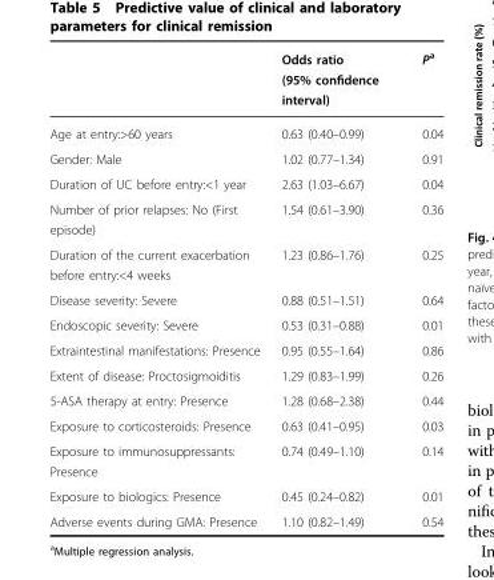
<table><thead><tr><td></td><td>Odds ratio (95% confidence interval)</td><td>P<sup>a</sup></td></tr></thead><tbody><tr><td>Age at entry:&gt;60 years</td><td>0.63 (0.40–0.99)</td><td>0.04</td></tr><tr><td>Gender: Male</td><td>1.02 (0.77–1.34)</td><td>0.91</td></tr><tr><td>Duration of UC before entry:&lt;1 year</td><td>2.63 (1.03–6.67)</td><td>0.04</td></tr><tr><td>Number of prior relapses: No (First episode)</td><td>1.54 (0.61–3.90)</td><td>0.36</td></tr><tr><td>Duration of the current exacerbation before entry:&lt;4 weeks</td><td>1.23 (0.86–1.76)</td><td>0.25</td></tr><tr><td>Disease severity: Severe</td><td>0.88 (0.51–1.51)</td><td>0.64</td></tr><tr><td>Endoscopic severity: Severe</td><td>0.53 (0.31–0.88)</td><td>0.01</td></tr><tr><td>Extraintestinal manifestations: Presence</td><td>0.95 (0.55–1.64)</td><td>0.86</td></tr><tr><td>Extent of disease: Proctosigmoiditis</td><td>1.29 (0.83–1.99)</td><td>0.26</td></tr><tr><td>5-ASA therapy at entry: Presence</td><td>1.28 (0.68–2.38)</td><td>0.44</td></tr><tr><td>Exposure to corticosteroids: Presence</td><td>0.63 (0.41–0.95)</td><td>0.03</td></tr><tr><td>Exposure to immunosuppressants: Presence</td><td>0.74 (0.49–1.10)</td><td>0.14</td></tr><tr><td>Exposure to biologics: Presence</td><td>0.45 (0.24–0.82)</td><td>0.01</td></tr><tr><td>Adverse events during GMA: Presence</td><td>1.10 (0.82–1.49)</td><td>0.54</td></tr></tbody></table>